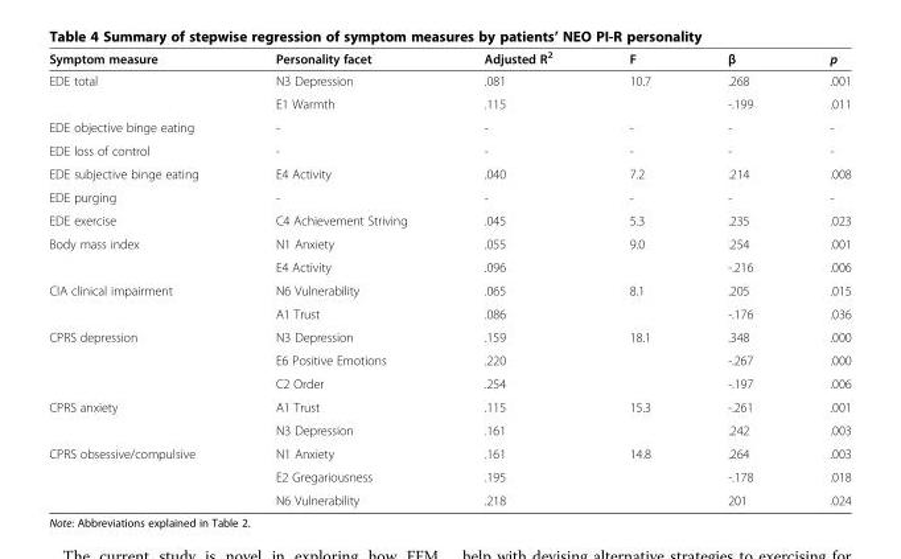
<table><thead><tr><td>Symptom measure</td><td>Personality facet</td><td>Adjusted R<sup>2</sup></td><td>F</td><td>β</td><td>p</td></tr></thead><tbody><tr><td rowspan="2">EDE total</td><td>N3 Depression</td><td>.081</td><td>10.7</td><td>.268</td><td>.001</td></tr><tr><td>E1 Warmth</td><td>.115</td><td></td><td>-.199</td><td>.011</td></tr><tr><td>EDE objective binge eating</td><td>-</td><td>-</td><td>-</td><td>-</td><td>-</td></tr><tr><td>EDE loss of control</td><td>-</td><td>-</td><td>-</td><td>-</td><td>-</td></tr><tr><td>EDE subjective binge eating</td><td>E4 Activity</td><td>.040</td><td>7.2</td><td>.214</td><td>.008</td></tr><tr><td>EDE purging</td><td>-</td><td>-</td><td>-</td><td>-</td><td>-</td></tr><tr><td>EDE exercise</td><td>C4 Achievement Striving</td><td>.045</td><td>5.3</td><td>.235</td><td>.023</td></tr><tr><td rowspan="2">Body mass index</td><td>N1 Anxiety</td><td>.055</td><td>9.0</td><td>.254</td><td>.001</td></tr><tr><td>E4 Activity</td><td>.096</td><td></td><td>-.216</td><td>.006</td></tr><tr><td rowspan="2">CIA clinical impairment</td><td>N6 Vulnerability</td><td>.065</td><td>8.1</td><td>.205</td><td>.015</td></tr><tr><td>A1 Trust</td><td>.086</td><td></td><td>-.176</td><td>.036</td></tr><tr><td rowspan="3">CPRS depression</td><td>N3 Depression</td><td>.159</td><td>18.1</td><td>.348</td><td>.000</td></tr><tr><td>E6 Positive Emotions</td><td>.220</td><td></td><td>-.267</td><td>.000</td></tr><tr><td>C2 Order</td><td>.254</td><td></td><td>-.197</td><td>.006</td></tr><tr><td rowspan="2">CPRS anxiety</td><td>A1 Trust</td><td>.115</td><td>15.3</td><td>-.261</td><td>.001</td></tr><tr><td>N3 Depression</td><td>.161</td><td></td><td>.242</td><td>.003</td></tr><tr><td rowspan="3">CPRS obsessive/compulsive</td><td>N1 Anxiety</td><td>.161</td><td>14.8</td><td>.264</td><td>.003</td></tr><tr><td>E2 Gregariousness</td><td>.195</td><td></td><td>-.178</td><td>.018</td></tr><tr><td>N6 Vulnerability</td><td>.218</td><td></td><td>201</td><td>.024</td></tr></tbody></table>